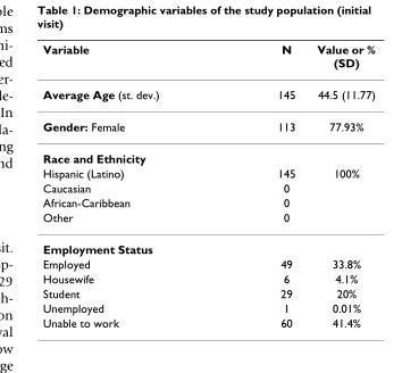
<table><thead><tr><td>Variable</td><td>N</td><td>Value or % (SD)</td></tr></thead><tbody><tr><td>Average Age (st. dev.)</td><td>145</td><td>44.5 (11.77)</td></tr><tr><td>Gender: Female</td><td>113</td><td>77.93%</td></tr><tr><td colspan="3">Race and Ethnicity</td></tr><tr><td>Hispanic (Latino)</td><td>145</td><td>100%</td></tr><tr><td>Caucasian</td><td>0</td><td></td></tr><tr><td>African-Caribbean</td><td>0</td><td></td></tr><tr><td>Other</td><td>0</td><td></td></tr><tr><td colspan="3">Employment Status</td></tr><tr><td>Employed</td><td>49</td><td>33.8%</td></tr><tr><td>Housewife</td><td>6</td><td>4.1%</td></tr><tr><td>Student</td><td>29</td><td>20%</td></tr><tr><td>Unemployed</td><td>1</td><td>0.01%</td></tr><tr><td>Unable to work</td><td>60</td><td>41.4%</td></tr></tbody></table>